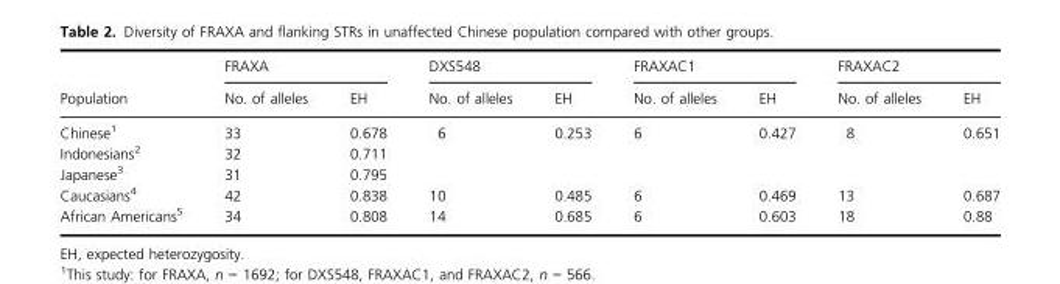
<table><thead><tr><td rowspan="2">Population</td><td colspan="2">FRAXA</td><td colspan="2">DXS548</td><td colspan="2">FRAXAC1</td><td colspan="2">FRAXAC2</td></tr><tr><td>No. of alleles</td><td>EH</td><td>No. of alleles</td><td>EH</td><td>No. of alleles</td><td>EH</td><td>No. of alleles</td><td>EH</td></tr></thead><tbody><tr><td>Chinese<sup>1</sup></td><td>33</td><td>0.678</td><td>6</td><td>0.253</td><td>6</td><td>0.427</td><td>8</td><td>0.651</td></tr><tr><td>Indonesians<sup>2</sup></td><td>32</td><td>0.711</td><td></td><td></td><td></td><td></td><td></td><td></td></tr><tr><td>Japanese<sup>3</sup></td><td>31</td><td>0.795</td><td></td><td></td><td></td><td></td><td></td><td></td></tr><tr><td>Caucasians<sup>4</sup></td><td>42</td><td>0.838</td><td>10</td><td>0.485</td><td>6</td><td>0.469</td><td>13</td><td>0.687</td></tr><tr><td>African Americans<sup>5</sup></td><td>34</td><td>0.808</td><td>14</td><td>0.685</td><td>6</td><td>0.603</td><td>18</td><td>0.88</td></tr></tbody></table>